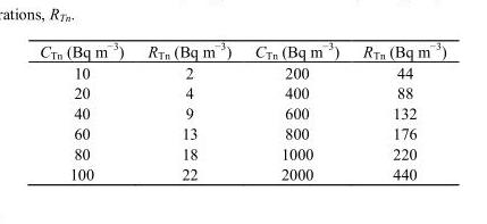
<table><thead><tr><td>C<sub>Tn</sub> (Bq m<sup>−3</sup>)</td><td>R<sub>Tn</sub> (Bq m<sup>−3</sup>)</td><td>C<sub>Tn</sub> (Bq m<sup>−3</sup>)</td><td>R<sub>Tn</sub> (Bq m<sup>−3</sup>)</td></tr></thead><tbody><tr><td>10</td><td>2</td><td>200</td><td>44</td></tr><tr><td>20</td><td>4</td><td>400</td><td>88</td></tr><tr><td>40</td><td>9</td><td>600</td><td>132</td></tr><tr><td>60</td><td>13</td><td>800</td><td>176</td></tr><tr><td>80</td><td>18</td><td>1000</td><td>220</td></tr><tr><td>100</td><td>22</td><td>2000</td><td>440</td></tr></tbody></table>